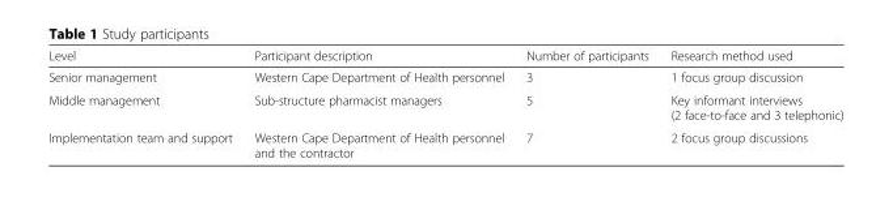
<table><thead><tr><td>Level</td><td>Participant description</td><td>Number of participants</td><td>Research method used</td></tr></thead><tbody><tr><td>Senior management</td><td>Western Cape Department of Health personnel</td><td>3</td><td>1 focus group discussion</td></tr><tr><td>Middle management</td><td>Sub-structure pharmacist managers</td><td>5</td><td>Key informant interviews (2 face-to-face and 3 telephonic)</td></tr><tr><td>Implementation team and support</td><td>Western Cape Department of Health personnel and the contractor</td><td>7</td><td>2 focus group discussions</td></tr></tbody></table>